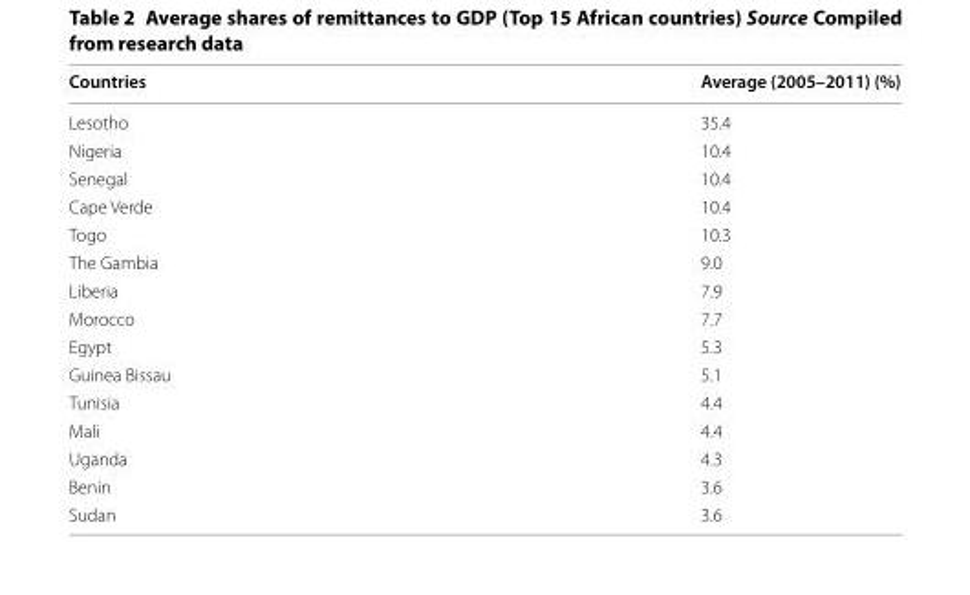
<table><thead><tr><td>Countries</td><td>Average (2005–2011) (%)</td></tr></thead><tbody><tr><td>Lesotho</td><td>35.4</td></tr><tr><td>Nigeria</td><td>10.4</td></tr><tr><td>Senegal</td><td>10.4</td></tr><tr><td>Cape Verde</td><td>10.4</td></tr><tr><td>Togo</td><td>10.3</td></tr><tr><td>The Gambia</td><td>9.0</td></tr><tr><td>Liberia</td><td>7.9</td></tr><tr><td>Morocco</td><td>7.7</td></tr><tr><td>Egypt</td><td>5.3</td></tr><tr><td>Guinea Bissau</td><td>5.1</td></tr><tr><td>Tunisia</td><td>4.4</td></tr><tr><td>Mali</td><td>4.4</td></tr><tr><td>Uganda</td><td>4.3</td></tr><tr><td>Benin</td><td>3.6</td></tr><tr><td>Sudan</td><td>3.6</td></tr></tbody></table>